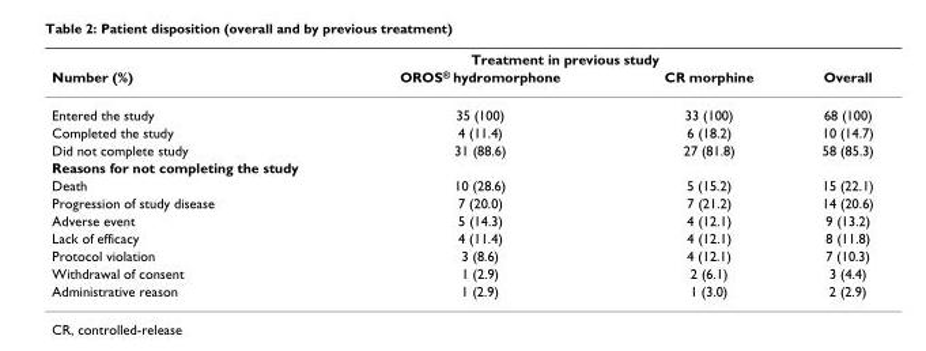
<table><thead><tr><td rowspan="2">Number (%)</td><td colspan="2">Treatment in previous study</td><td rowspan="2">Overall</td></tr><tr><td>OROS® hydromorphone</td><td>CR morphine</td></tr></thead><tbody><tr><td>Entered the study</td><td>35 (100)</td><td>33 (100)</td><td>68 (100)</td></tr><tr><td>Completed the study</td><td>4 (11.4)</td><td>6 (18.2)</td><td>10 (14.7)</td></tr><tr><td>Did not complete study</td><td>31 (88.6)</td><td>27 (81.8)</td><td>58 (85.3)</td></tr><tr><td colspan="4">Reasons for not completing the study</td></tr><tr><td>Death</td><td>10 (28.6)</td><td>5 (15.2)</td><td>15 (22.1)</td></tr><tr><td>Progression of study disease</td><td>7 (20.0)</td><td>7 (21.2)</td><td>14 (20.6)</td></tr><tr><td>Adverse event</td><td>5 (14.3)</td><td>4 (12.1)</td><td>9 (13.2)</td></tr><tr><td>Lack of efficacy</td><td>4 (11.4)</td><td>4 (12.1)</td><td>8 (11.8)</td></tr><tr><td>Protocol violation</td><td>3 (8.6)</td><td>4 (12.1)</td><td>7 (10.3)</td></tr><tr><td>Withdrawal of consent</td><td>1 (2.9)</td><td>2 (6.1)</td><td>3 (4.4)</td></tr><tr><td>Administrative reason</td><td>1 (2.9)</td><td>1 (3.0)</td><td>2 (2.9)</td></tr></tbody></table>